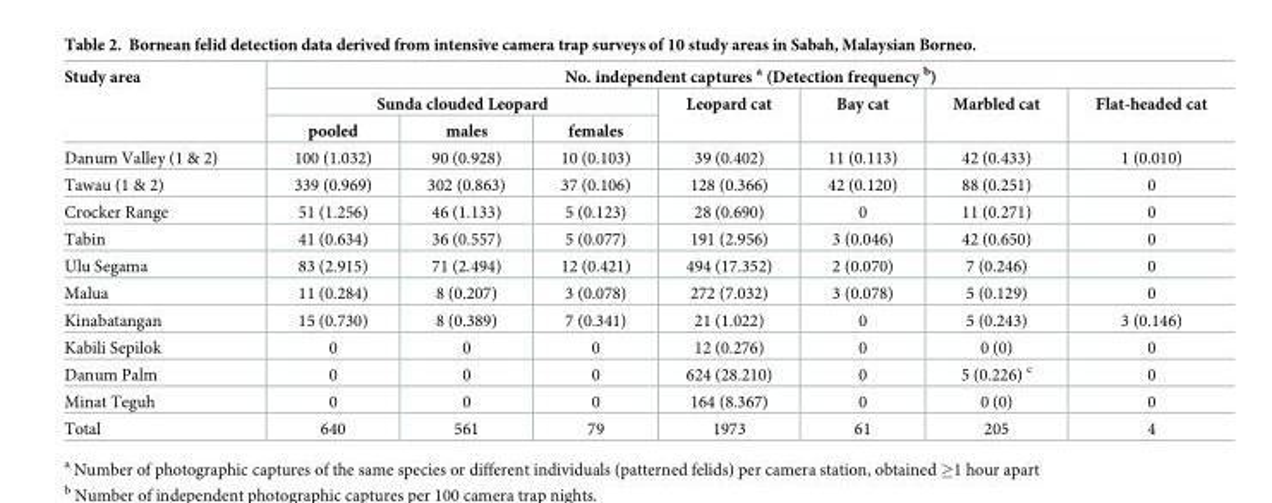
<table><thead><tr><td rowspan="3">Study area</td><td colspan="7">No. independent captures <sup>a</sup> (Detection frequency <sup>b</sup>)</td></tr><tr><td colspan="3">Sunda clouded Leopard</td><td rowspan="2">Leopard cat</td><td rowspan="2">Bay cat</td><td rowspan="2">Marbled cat</td><td rowspan="2">Flat-headed cat</td></tr><tr><td>pooled</td><td>males</td><td>females</td></tr></thead><tbody><tr><td>Danum Valley (1 &amp; 2)</td><td>100 (1.032)</td><td>90 (0.928)</td><td>10 (0.103)</td><td>39 (0.402)</td><td>11 (0.113)</td><td>42 (0.433)</td><td>1 (0.010)</td></tr><tr><td>Tawau (1 &amp; 2)</td><td>339 (0.969)</td><td>302 (0.863)</td><td>37 (0.106)</td><td>128 (0.366)</td><td>42 (0.120)</td><td>88 (0.251)</td><td>0</td></tr><tr><td>Crocker Range</td><td>51 (1.256)</td><td>46 (1.133)</td><td>5 (0.123)</td><td>28 (0.690)</td><td>0</td><td>11 (0.271)</td><td>0</td></tr><tr><td>Tabin</td><td>41 (0.634)</td><td>36 (0.557)</td><td>5 (0.077)</td><td>191 (2.956)</td><td>3 (0.046)</td><td>42 (0.650)</td><td>0</td></tr><tr><td>Ulu Segama</td><td>83 (2.915)</td><td>71 (2.494)</td><td>12 (0.421)</td><td>494 (17.352)</td><td>2 (0.070)</td><td>7 (0.246)</td><td>0</td></tr><tr><td>Malua</td><td>11 (0.284)</td><td>8 (0.207)</td><td>3 (0.078)</td><td>272 (7.032)</td><td>3 (0.078)</td><td>5 (0.129)</td><td>0</td></tr><tr><td>Kinabatangan</td><td>15 (0.730)</td><td>8 (0.389)</td><td>7 (0.341)</td><td>21 (1.022)</td><td>0</td><td>5 (0.243)</td><td>3 (0.146)</td></tr><tr><td>Kabili Sepilok</td><td>0</td><td>0</td><td>0</td><td>12 (0.276)</td><td>0</td><td>0 (0)</td><td>0</td></tr><tr><td>Danum Palm</td><td>0</td><td>0</td><td>0</td><td>624 (28.210)</td><td>0</td><td>5 (0.226) <sup>c</sup></td><td>0</td></tr><tr><td>Minat Teguh</td><td>0</td><td>0</td><td>0</td><td>164 (8.367)</td><td>0</td><td>0 (0)</td><td>0</td></tr><tr><td>Total</td><td>640</td><td>561</td><td>79</td><td>1973</td><td>61</td><td>205</td><td>4</td></tr></tbody></table>